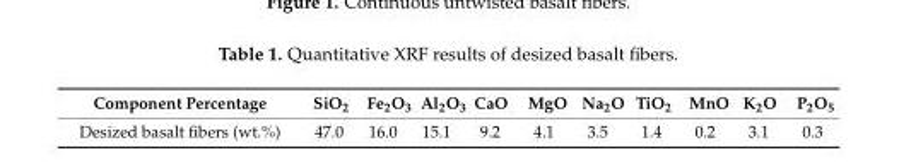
<table><thead><tr><td>Component Percentage</td><td>SiO<sub>2</sub></td><td>Fe<sub>2</sub>O<sub>3</sub></td><td>Al<sub>2</sub>O<sub>3</sub></td><td>CaO</td><td>MgO</td><td>Na<sub>2</sub>O</td><td>TiO<sub>2</sub></td><td>MnO</td><td>K<sub>2</sub>O</td><td>P<sub>2</sub>O<sub>5</sub></td></tr></thead><tbody><tr><td>Desized basalt fibers (wt.%)</td><td>47.0</td><td>16.0</td><td>15.1</td><td>9.2</td><td>4.1</td><td>3.5</td><td>1.4</td><td>0.2</td><td>3.1</td><td>0.3</td></tr></tbody></table>